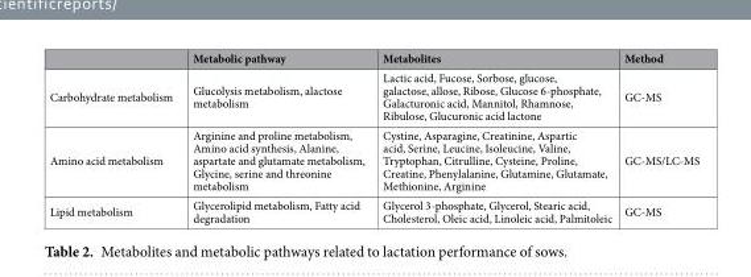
<table><thead><tr><td></td><td>Metabolic pathway</td><td>Metabolites</td><td>Method</td></tr></thead><tbody><tr><td>Carbohydrate metabolism</td><td>Glucolysis metabolism, alactose metabolism</td><td>Lactic acid, Fucose, Sorbose, glucose, galactose, allose, Ribose, Glucose 6-phosphate, Galacturonic acid, Mannitol, Rhamnose, Ribulose, Glucuronic acid lactone</td><td>GC-MS</td></tr><tr><td>Amino acid metabolism</td><td>Arginine and proline metabolism, Amino acid synthesis, Alanine, aspartate and glutamate metabolism, Glycine, serine and threonine metabolism</td><td>Cystine, Asparagine, Creatinine, Aspartic acid, Serine, Leucine, Isoleucine, Valine, Tryptophan, Citrulline, Cysteine, Proline, Creatine, Phenylalanine, Glutamine, Glutamate, Methionine, Arginine</td><td>GC-MS/LC-MS</td></tr><tr><td>Lipid metabolism</td><td>Glycerolipid metabolism, Fatty acid degradation</td><td>Glycerol 3-phosphate, Glycerol, Stearic acid, Cholesterol, Oleic acid, Linoleic acid, Palmitoleic</td><td>GC-MS</td></tr></tbody></table>